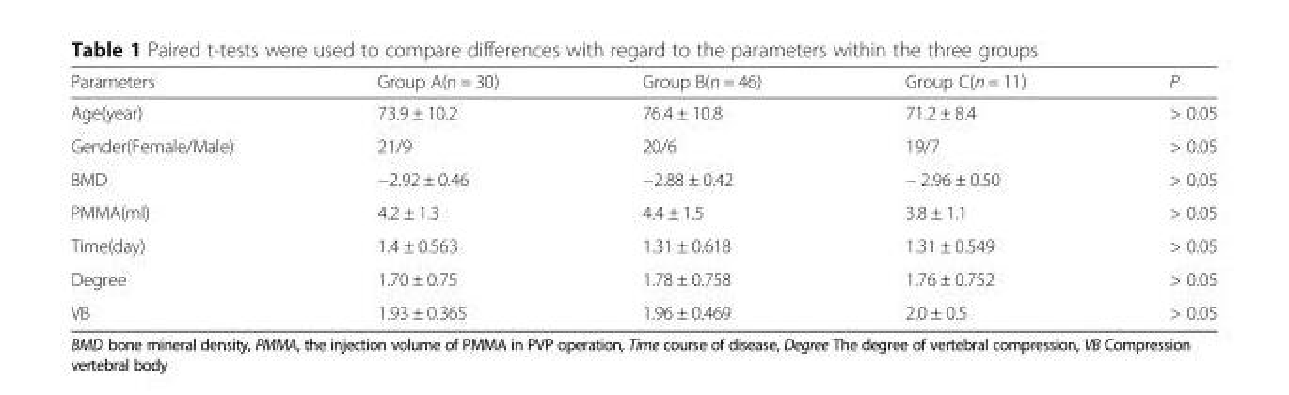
<table><thead><tr><td>Parameters</td><td>Group A(n = 30)</td><td>Group B(n = 46)</td><td>Group C(n = 11)</td><td>P</td></tr></thead><tbody><tr><td>Age(year)</td><td>73.9 ± 10.2</td><td>76.4 ± 10.8</td><td>71.2 ± 8.4</td><td>&gt; 0.05</td></tr><tr><td>Gender(Female/Male)</td><td>21/9</td><td>20/6</td><td>19/7</td><td>&gt; 0.05</td></tr><tr><td>BMD</td><td>−2.92 ± 0.46</td><td>−2.88 ± 0.42</td><td>− 2.96 ± 0.50</td><td>&gt; 0.05</td></tr><tr><td>PMMA(ml)</td><td>4.2 ± 1.3</td><td>4.4 ± 1.5</td><td>3.8 ± 1.1</td><td>&gt; 0.05</td></tr><tr><td>Time(day)</td><td>1.4 ± 0.563</td><td>1.31 ± 0.618</td><td>1.31 ± 0.549</td><td>&gt; 0.05</td></tr><tr><td>Degree</td><td>1.70 ± 0.75</td><td>1.78 ± 0.758</td><td>1.76 ± 0.752</td><td>&gt; 0.05</td></tr><tr><td>VB</td><td>1.93 ± 0.365</td><td>1.96 ± 0.469</td><td>2.0 ± 0.5</td><td>&gt; 0.05</td></tr></tbody></table>